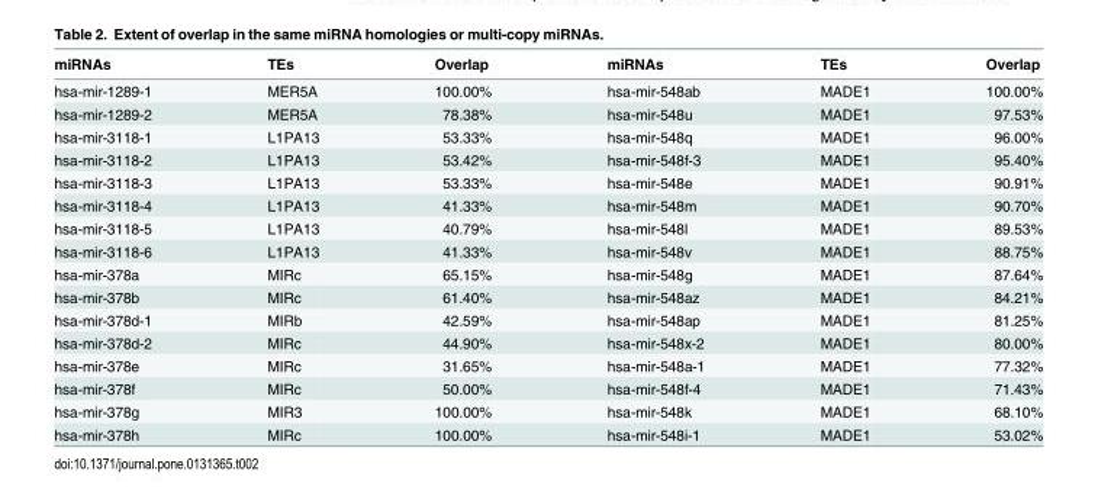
<table><thead><tr><td>miRNAs</td><td>TEs</td><td>Overlap</td><td>miRNAs</td><td>TEs</td><td>Overlap</td></tr></thead><tbody><tr><td>hsa-mir-1289-1</td><td>MER5A</td><td>100.00%</td><td>hsa-mir-548ab</td><td>MADE1</td><td>100.00%</td></tr><tr><td>hsa-mir-1289-2</td><td>MER5A</td><td>78.38%</td><td>hsa-mir-548u</td><td>MADE1</td><td>97.53%</td></tr><tr><td>hsa-mir-3118-1</td><td>L1PA13</td><td>53.33%</td><td>hsa-mir-548q</td><td>MADE1</td><td>96.00%</td></tr><tr><td>hsa-mir-3118-2</td><td>L1PA13</td><td>53.42%</td><td>hsa-mir-548f-3</td><td>MADE1</td><td>95.40%</td></tr><tr><td>hsa-mir-3118-3</td><td>L1PA13</td><td>53.33%</td><td>hsa-mir-548e</td><td>MADE1</td><td>90.91%</td></tr><tr><td>hsa-mir-3118-4</td><td>L1PA13</td><td>41.33%</td><td>hsa-mir-548m</td><td>MADE1</td><td>90.70%</td></tr><tr><td>hsa-mir-3118-5</td><td>L1PA13</td><td>40.79%</td><td>hsa-mir-548l</td><td>MADE1</td><td>89.53%</td></tr><tr><td>hsa-mir-3118-6</td><td>L1PA13</td><td>41.33%</td><td>hsa-mir-548v</td><td>MADE1</td><td>88.75%</td></tr><tr><td>hsa-mir-378a</td><td>MIRc</td><td>65.15%</td><td>hsa-mir-548g</td><td>MADE1</td><td>87.64%</td></tr><tr><td>hsa-mir-378b</td><td>MIRc</td><td>61.40%</td><td>hsa-mir-548az</td><td>MADE1</td><td>84.21%</td></tr><tr><td>hsa-mir-378d-1</td><td>MIRb</td><td>42.59%</td><td>hsa-mir-548ap</td><td>MADE1</td><td>81.25%</td></tr><tr><td>hsa-mir-378d-2</td><td>MIRc</td><td>44.90%</td><td>hsa-mir-548x-2</td><td>MADE1</td><td>80.00%</td></tr><tr><td>hsa-mir-378e</td><td>MIRc</td><td>31.65%</td><td>hsa-mir-548a-1</td><td>MADE1</td><td>77.32%</td></tr><tr><td>hsa-mir-378f</td><td>MIRc</td><td>50.00%</td><td>hsa-mir-548f-4</td><td>MADE1</td><td>71.43%</td></tr><tr><td>hsa-mir-378g</td><td>MIR3</td><td>100.00%</td><td>hsa-mir-548k</td><td>MADE1</td><td>68.10%</td></tr><tr><td>hsa-mir-378h</td><td>MIRc</td><td>100.00%</td><td>hsa-mir-548i-1</td><td>MADE1</td><td>53.02%</td></tr></tbody></table>